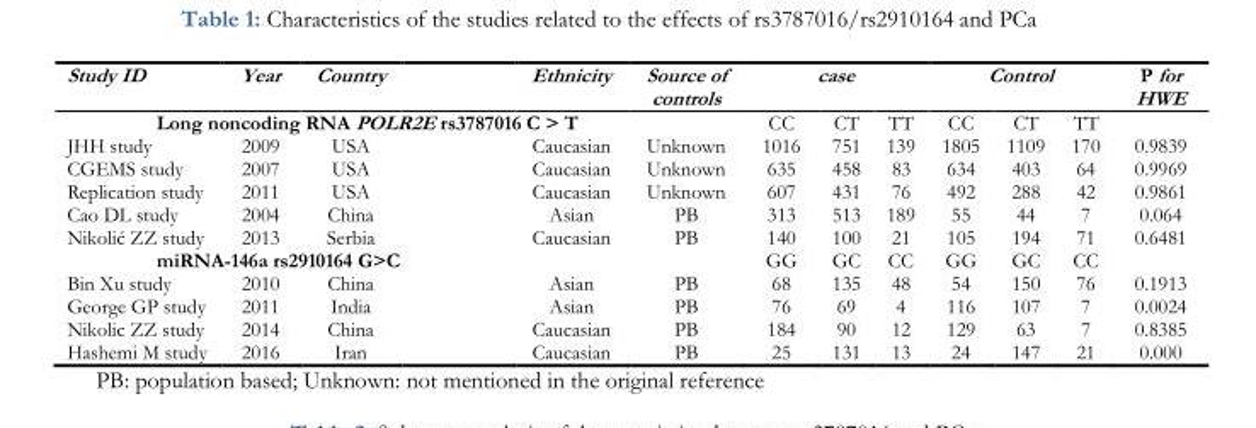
<table><thead><tr><td>Study ID</td><td>Year</td><td>Country</td><td>Ethnicity</td><td rowspan="2">Source of controls</td><td colspan="3">case</td><td colspan="3">Control</td><td rowspan="2">P for HWE</td></tr><tr><td colspan="4">Long noncoding RNA POLR2E rs3787016 C &gt; T</td><td>CC</td><td>CT</td><td>TT</td><td>CC</td><td>CT</td><td>TT</td></tr></thead><tbody><tr><td>JHH study</td><td>2009</td><td>USA</td><td>Caucasian</td><td>Unknown</td><td>1016</td><td>751</td><td>139</td><td>1805</td><td>1109</td><td>170</td><td>0.9839</td></tr><tr><td>CGEMS study</td><td>2007</td><td>USA</td><td>Caucasian</td><td>Unknown</td><td>635</td><td>458</td><td>83</td><td>634</td><td>403</td><td>64</td><td>0.9969</td></tr><tr><td>Replication study</td><td>2011</td><td>USA</td><td>Caucasian</td><td>Unknown</td><td>607</td><td>431</td><td>76</td><td>492</td><td>288</td><td>42</td><td>0.9861</td></tr><tr><td>Cao DL study</td><td>2004</td><td>China</td><td>Asian</td><td>PB</td><td>313</td><td>513</td><td>189</td><td>55</td><td>44</td><td>7</td><td>0.064</td></tr><tr><td>Nikolić ZZ study</td><td>2013</td><td>Serbia</td><td>Caucasian</td><td>PB</td><td>140</td><td>100</td><td>21</td><td>105</td><td>194</td><td>71</td><td>0.6481</td></tr><tr><td colspan="3">miRNA-146a rs2910164 G&gt;C</td><td></td><td></td><td>GG</td><td>GC</td><td>CC</td><td>GG</td><td>GC</td><td>CC</td><td></td></tr><tr><td>Bin Xu study</td><td>2010</td><td>China</td><td>Asian</td><td>PB</td><td>68</td><td>135</td><td>48</td><td>54</td><td>150</td><td>76</td><td>0.1913</td></tr><tr><td>George GP study</td><td>2011</td><td>India</td><td>Asian</td><td>PB</td><td>76</td><td>69</td><td>4</td><td>116</td><td>107</td><td>7</td><td>0.0024</td></tr><tr><td>Nikolic ZZ study</td><td>2014</td><td>China</td><td>Caucasian</td><td>PB</td><td>184</td><td>90</td><td>12</td><td>129</td><td>63</td><td>7</td><td>0.8385</td></tr><tr><td>Hashemi M study</td><td>2016</td><td>Iran</td><td>Caucasian</td><td>PB</td><td>25</td><td>131</td><td>13</td><td>24</td><td>147</td><td>21</td><td>0.000</td></tr></tbody></table>